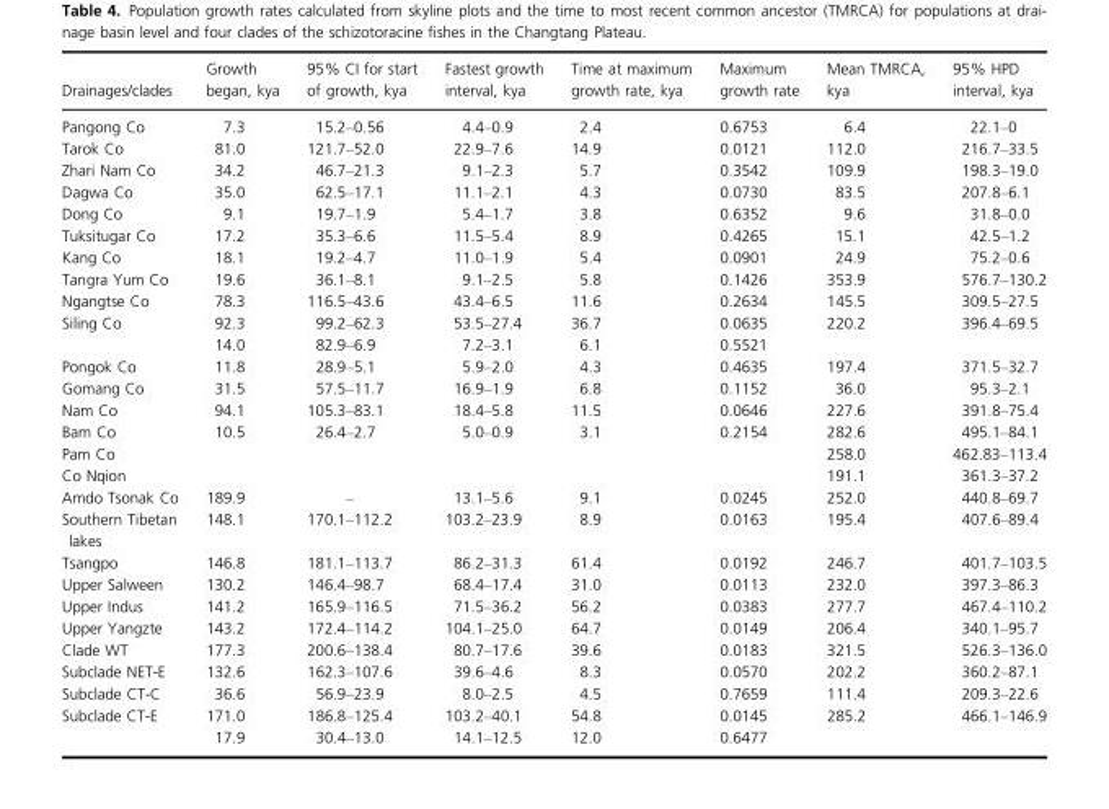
<table><thead><tr><td>Drainages/clades</td><td>Growth began, kya</td><td>95% CI for start of growth, kya</td><td>Fastest growth interval, kya</td><td>Time at maximum growth rate, kya</td><td>Maximum growth rate</td><td>Mean TMRCA, kya</td><td>95% HPD interval, kya</td></tr></thead><tbody><tr><td>Pangong Co</td><td>7.3</td><td>15.2–0.56</td><td>4.4–0.9</td><td>2.4</td><td>0.6753</td><td>6.4</td><td>22.1–0</td></tr><tr><td>Tarok Co</td><td>81.0</td><td>121.7–52.0</td><td>22.9–7.6</td><td>14.9</td><td>0.0121</td><td>112.0</td><td>216.7–33.5</td></tr><tr><td>Zhari Nam Co</td><td>34.2</td><td>46.7–21.3</td><td>9.1–2.3</td><td>5.7</td><td>0.3542</td><td>109.9</td><td>198.3–19.0</td></tr><tr><td>Dagwa Co</td><td>35.0</td><td>62.5–17.1</td><td>11.1–2.1</td><td>4.3</td><td>0.0730</td><td>83.5</td><td>207.8–6.1</td></tr><tr><td>Dong Co</td><td>9.1</td><td>19.7–1.9</td><td>5.4–1.7</td><td>3.8</td><td>0.6352</td><td>9.6</td><td>31.8–0.0</td></tr><tr><td>Tuksitugar Co</td><td>17.2</td><td>35.3–6.6</td><td>11.5–5.4</td><td>8.9</td><td>0.4265</td><td>15.1</td><td>42.5–1.2</td></tr><tr><td>Kang Co</td><td>18.1</td><td>19.2–4.7</td><td>11.0–1.9</td><td>5.4</td><td>0.0901</td><td>24.9</td><td>75.2–0.6</td></tr><tr><td>Tangra Yum Co</td><td>19.6</td><td>36.1–8.1</td><td>9.1–2.5</td><td>5.8</td><td>0.1426</td><td>353.9</td><td>576.7–130.2</td></tr><tr><td>Ngangtse Co</td><td>78.3</td><td>116.5–43.6</td><td>43.4–6.5</td><td>11.6</td><td>0.2634</td><td>145.5</td><td>309.5–27.5</td></tr><tr><td rowspan="2">Siling Co</td><td>92.3</td><td>99.2–62.3</td><td>53.5–27.4</td><td>36.7</td><td>0.0635</td><td>220.2</td><td>396.4–69.5</td></tr><tr><td>14.0</td><td>82.9–6.9</td><td>7.2–3.1</td><td>6.1</td><td>0.5521</td><td></td><td></td></tr><tr><td>Pongok Co</td><td>11.8</td><td>28.9–5.1</td><td>5.9–2.0</td><td>4.3</td><td>0.4635</td><td>197.4</td><td>371.5–32.7</td></tr><tr><td>Gomang Co</td><td>31.5</td><td>57.5–11.7</td><td>16.9–1.9</td><td>6.8</td><td>0.1152</td><td>36.0</td><td>95.3–2.1</td></tr><tr><td>Nam Co</td><td>94.1</td><td>105.3–83.1</td><td>18.4–5.8</td><td>11.5</td><td>0.0646</td><td>227.6</td><td>391.8–75.4</td></tr><tr><td>Bam Co</td><td>10.5</td><td>26.4–2.7</td><td>5.0–0.9</td><td>3.1</td><td>0.2154</td><td>282.6</td><td>495.1–84.1</td></tr><tr><td>Pam Co</td><td></td><td></td><td></td><td></td><td></td><td>258.0</td><td>462.83–113.4</td></tr><tr><td>Co Nqion</td><td></td><td></td><td></td><td></td><td></td><td>191.1</td><td>361.3–37.2</td></tr><tr><td>Amdo Tsonak Co</td><td>189.9</td><td>–</td><td>13.1–5.6</td><td>9.1</td><td>0.0245</td><td>252.0</td><td>440.8–69.7</td></tr><tr><td>Southern Tibetan lakes</td><td>148.1</td><td>170.1–112.2</td><td>103.2–23.9</td><td>8.9</td><td>0.0163</td><td>195.4</td><td>407.6–89.4</td></tr><tr><td>Tsangpo</td><td>146.8</td><td>181.1–113.7</td><td>86.2–31.3</td><td>61.4</td><td>0.0192</td><td>246.7</td><td>401.7–103.5</td></tr><tr><td>Upper Salween</td><td>130.2</td><td>146.4–98.7</td><td>68.4–17.4</td><td>31.0</td><td>0.0113</td><td>232.0</td><td>397.3–86.3</td></tr><tr><td>Upper Indus</td><td>141.2</td><td>165.9–116.5</td><td>71.5–36.2</td><td>56.2</td><td>0.0383</td><td>277.7</td><td>467.4–110.2</td></tr><tr><td>Upper Yangzte</td><td>143.2</td><td>172.4–114.2</td><td>104.1–25.0</td><td>64.7</td><td>0.0149</td><td>206.4</td><td>340.1–95.7</td></tr><tr><td>Clade WT</td><td>177.3</td><td>200.6–138.4</td><td>80.7–17.6</td><td>39.6</td><td>0.0183</td><td>321.5</td><td>526.3–136.0</td></tr><tr><td>Subclade NET-E</td><td>132.6</td><td>162.3–107.6</td><td>39.6–4.6</td><td>8.3</td><td>0.0570</td><td>202.2</td><td>360.2–87.1</td></tr><tr><td>Subclade CT-C</td><td>36.6</td><td>56.9–23.9</td><td>8.0–2.5</td><td>4.5</td><td>0.7659</td><td>111.4</td><td>209.3–22.6</td></tr><tr><td rowspan="2">Subclade CT-E</td><td>171.0</td><td>186.8–125.4</td><td>103.2–40.1</td><td>54.8</td><td>0.0145</td><td>285.2</td><td>466.1–146.9</td></tr><tr><td>17.9</td><td>30.4–13.0</td><td>14.1–12.5</td><td>12.0</td><td>0.6477</td><td></td><td></td></tr></tbody></table>